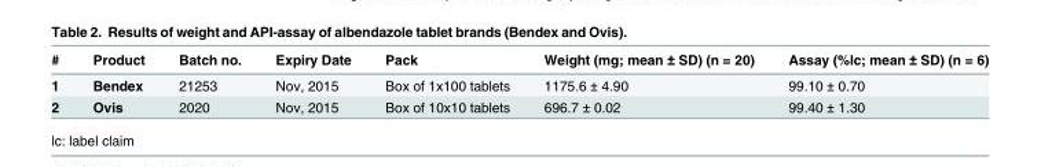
<table><thead><tr><td>#</td><td>Product</td><td>Batch no.</td><td>Expiry Date</td><td>Pack</td><td>Weight (mg; mean ± SD) (n = 20)</td><td>Assay (%lc; mean ± SD) (n = 6)</td></tr></thead><tbody><tr><td>1</td><td>Bendex</td><td>21253</td><td>Nov, 2015</td><td>Box of 1x100 tablets</td><td>1175.6 ± 4.90</td><td>99.10 ± 0.70</td></tr><tr><td>2</td><td>Ovis</td><td>2020</td><td>Nov, 2015</td><td>Box of 10x10 tablets</td><td>696.7 ± 0.02</td><td>99.40 ± 1.30</td></tr></tbody></table>